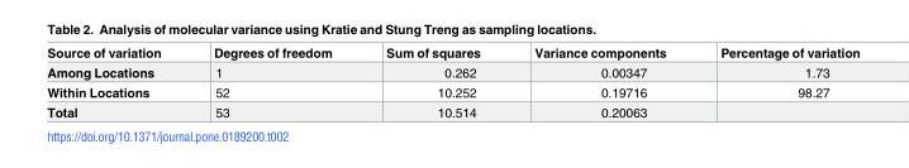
<table><thead><tr><td>Source of variation</td><td>Degrees of freedom</td><td>Sum of squares</td><td>Variance components</td><td>Percentage of variation</td></tr></thead><tbody><tr><td>Among Locations</td><td>1</td><td>0.262</td><td>0.00347</td><td>1.73</td></tr><tr><td>Within Locations</td><td>52</td><td>10.252</td><td>0.19716</td><td>98.27</td></tr><tr><td>Total</td><td>53</td><td>10.514</td><td>0.20063</td><td></td></tr></tbody></table>